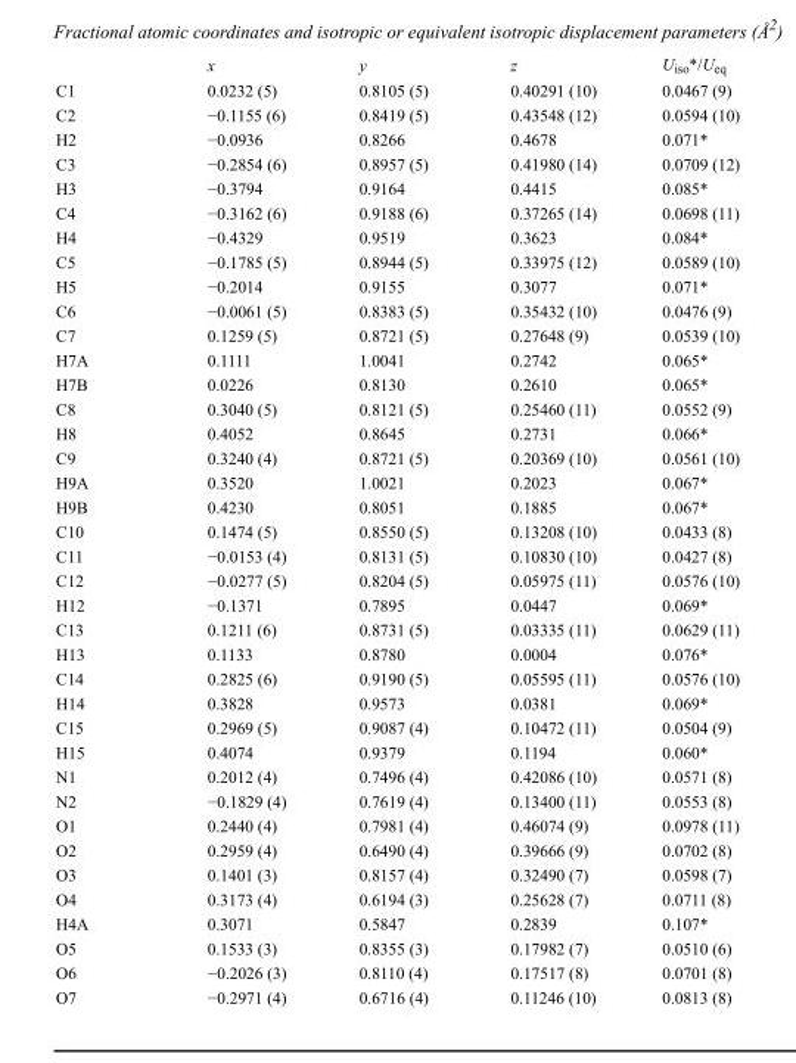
<table><thead><tr><td></td><td>x</td><td>y</td><td>z</td><td>U<sub>iso</sub>*/U<sub>eq</sub></td></tr></thead><tbody><tr><td>C1</td><td>0.0232 (5)</td><td>0.8105 (5)</td><td>0.40291 (10)</td><td>0.0467 (9)</td></tr><tr><td>C2</td><td>−0.1155 (6)</td><td>0.8419 (5)</td><td>0.43548 (12)</td><td>0.0594 (10)</td></tr><tr><td>H2</td><td>−0.0936</td><td>0.8266</td><td>0.4678</td><td>0.071*</td></tr><tr><td>C3</td><td>−0.2854 (6)</td><td>0.8957 (5)</td><td>0.41980 (14)</td><td>0.0709 (12)</td></tr><tr><td>H3</td><td>−0.3794</td><td>0.9164</td><td>0.4415</td><td>0.085*</td></tr><tr><td>C4</td><td>−0.3162 (6)</td><td>0.9188 (6)</td><td>0.37265 (14)</td><td>0.0698 (11)</td></tr><tr><td>H4</td><td>−0.4329</td><td>0.9519</td><td>0.3623</td><td>0.084*</td></tr><tr><td>C5</td><td>−0.1785 (5)</td><td>0.8944 (5)</td><td>0.33975 (12)</td><td>0.0589 (10)</td></tr><tr><td>H5</td><td>−0.2014</td><td>0.9155</td><td>0.3077</td><td>0.071*</td></tr><tr><td>C6</td><td>−0.0061 (5)</td><td>0.8383 (5)</td><td>0.35432 (10)</td><td>0.0476 (9)</td></tr><tr><td>C7</td><td>0.1259 (5)</td><td>0.8721 (5)</td><td>0.27648 (9)</td><td>0.0539 (10)</td></tr><tr><td>H7A</td><td>0.1111</td><td>1.0041</td><td>0.2742</td><td>0.065*</td></tr><tr><td>H7B</td><td>0.0226</td><td>0.8130</td><td>0.2610</td><td>0.065*</td></tr><tr><td>C8</td><td>0.3040 (5)</td><td>0.8121 (5)</td><td>0.25460 (11)</td><td>0.0552 (9)</td></tr><tr><td>H8</td><td>0.4052</td><td>0.8645</td><td>0.2731</td><td>0.066*</td></tr><tr><td>C9</td><td>0.3240 (4)</td><td>0.8721 (5)</td><td>0.20369 (10)</td><td>0.0561 (10)</td></tr><tr><td>H9A</td><td>0.3520</td><td>1.0021</td><td>0.2023</td><td>0.067*</td></tr><tr><td>H9B</td><td>0.4230</td><td>0.8051</td><td>0.1885</td><td>0.067*</td></tr><tr><td>C10</td><td>0.1474 (5)</td><td>0.8550 (5)</td><td>0.13208 (10)</td><td>0.0433 (8)</td></tr><tr><td>C11</td><td>−0.0153 (4)</td><td>0.8131 (5)</td><td>0.10830 (10)</td><td>0.0427 (8)</td></tr><tr><td>C12</td><td>−0.0277 (5)</td><td>0.8204 (5)</td><td>0.05975 (11)</td><td>0.0576 (10)</td></tr><tr><td>H12</td><td>−0.1371</td><td>0.7895</td><td>0.0447</td><td>0.069*</td></tr><tr><td>C13</td><td>0.1211 (6)</td><td>0.8731 (5)</td><td>0.03335 (11)</td><td>0.0629 (11)</td></tr><tr><td>H13</td><td>0.1133</td><td>0.8780</td><td>0.0004</td><td>0.076*</td></tr><tr><td>C14</td><td>0.2825 (6)</td><td>0.9190 (5)</td><td>0.05595 (11)</td><td>0.0576 (10)</td></tr><tr><td>H14</td><td>0.3828</td><td>0.9573</td><td>0.0381</td><td>0.069*</td></tr><tr><td>C15</td><td>0.2969 (5)</td><td>0.9087 (4)</td><td>0.10472 (11)</td><td>0.0504 (9)</td></tr><tr><td>H15</td><td>0.4074</td><td>0.9379</td><td>0.1194</td><td>0.060*</td></tr><tr><td>N1</td><td>0.2012 (4)</td><td>0.7496 (4)</td><td>0.42086 (10)</td><td>0.0571 (8)</td></tr><tr><td>N2</td><td>−0.1829 (4)</td><td>0.7619 (4)</td><td>0.13400 (11)</td><td>0.0553 (8)</td></tr><tr><td>O1</td><td>0.2440 (4)</td><td>0.7981 (4)</td><td>0.46074 (9)</td><td>0.0978 (11)</td></tr><tr><td>O2</td><td>0.2959 (4)</td><td>0.6490 (4)</td><td>0.39666 (9)</td><td>0.0702 (8)</td></tr><tr><td>O3</td><td>0.1401 (3)</td><td>0.8157 (4)</td><td>0.32490 (7)</td><td>0.0598 (7)</td></tr><tr><td>O4</td><td>0.3173 (4)</td><td>0.6194 (3)</td><td>0.25628 (7)</td><td>0.0711 (8)</td></tr><tr><td>H4A</td><td>0.3071</td><td>0.5847</td><td>0.2839</td><td>0.107*</td></tr><tr><td>O5</td><td>0.1533 (3)</td><td>0.8355 (3)</td><td>0.17982 (7)</td><td>0.0510 (6)</td></tr><tr><td>O6</td><td>−0.2026 (3)</td><td>0.8110 (4)</td><td>0.17517 (8)</td><td>0.0701 (8)</td></tr><tr><td>O7</td><td>−0.2971 (4)</td><td>0.6716 (4)</td><td>0.11246 (10)</td><td>0.0813 (8)</td></tr></tbody></table>